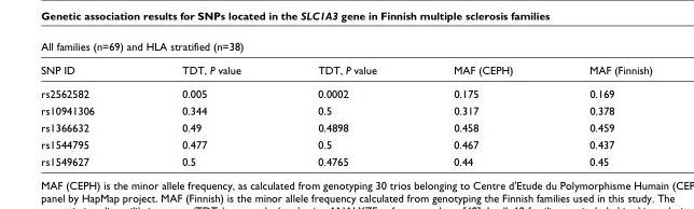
<table><thead><tr><td colspan="5">All families (n=69) and HLA stratified (n=38)</td></tr><tr><td>SNP ID</td><td>TDT, P value</td><td>TDT, P value</td><td>MAF (CEPH)</td><td>MAF (Finnish)</td></tr></thead><tbody><tr><td>rs2562582</td><td>0.005</td><td>0.0002</td><td>0.175</td><td>0.169</td></tr><tr><td>rs10941306</td><td>0.344</td><td>0.5</td><td>0.317</td><td>0.378</td></tr><tr><td>rs1366632</td><td>0.49</td><td>0.4898</td><td>0.458</td><td>0.459</td></tr><tr><td>rs1544795</td><td>0.477</td><td>0.5</td><td>0.467</td><td>0.437</td></tr><tr><td>rs1549627</td><td>0.5</td><td>0.4765</td><td>0.44</td><td>0.45</td></tr></tbody></table>